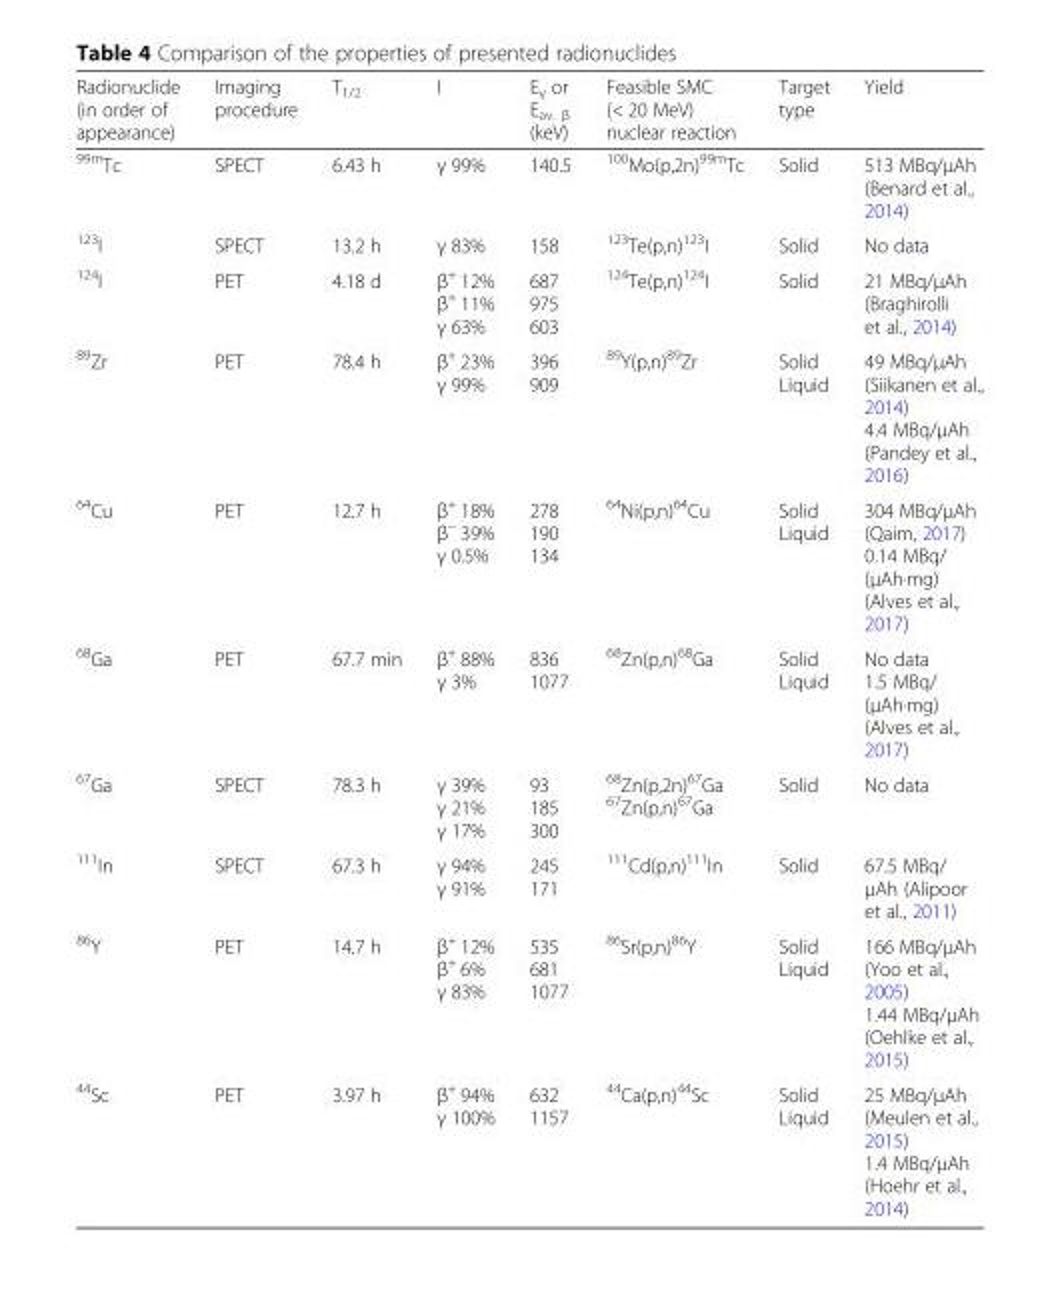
<table><thead><tr><td>Radionuclide (in order of appearance)</td><td>Imaging procedure</td><td>T<sub>1/2</sub></td><td>I</td><td>E<sub>γ</sub> or E<sub>av. β</sub> (keV)</td><td>Feasible SMC (&lt; 20 MeV) nuclear reaction</td><td>Target type</td><td>Yield</td></tr></thead><tbody><tr><td><sup>99m</sup>Tc</td><td>SPECT</td><td>6.43 h</td><td>γ 99%</td><td>140.5</td><td><sup>100</sup>Mo(p,2n)<sup>99m</sup>Tc</td><td>Solid</td><td>513 MBq/μAh (Benard et al., 2014)</td></tr><tr><td><sup>123</sup>I</td><td>SPECT</td><td>13.2 h</td><td>γ 83%</td><td>158</td><td><sup>123</sup>Te(p,n)<sup>123</sup>I</td><td>Solid</td><td>No data</td></tr><tr><td><sup>124</sup>I</td><td>PET</td><td>4.18 d</td><td>β<sup>+</sup> 12% β<sup>+</sup> 11% γ 63%</td><td>687 975 603</td><td><sup>124</sup>Te(p,n)<sup>124</sup>I</td><td>Solid</td><td>21 MBq/μAh (Braghirolli et al., 2014)</td></tr><tr><td><sup>89</sup>Zr</td><td>PET</td><td>78.4 h</td><td>β<sup>+</sup> 23% γ 99%</td><td>396 909</td><td><sup>89</sup>Y(p,n)<sup>89</sup>Zr</td><td>Solid Liquid</td><td>49 MBq/μAh (Siikanen et al., 2014) 4.4 MBq/μAh (Pandey et al., 2016)</td></tr><tr><td><sup>64</sup>Cu</td><td>PET</td><td>12.7 h</td><td>β<sup>+</sup> 18% β<sup>−</sup> 39% γ 0.5%</td><td>278 190 134</td><td><sup>64</sup>Ni(p,n)<sup>64</sup>Cu</td><td>Solid Liquid</td><td>304 MBq/μAh (Qaim, 2017) 0.14 MBq/ (μAh·mg) (Alves et al., 2017)</td></tr><tr><td><sup>68</sup>Ga</td><td>PET</td><td>67.7 min</td><td>β<sup>+</sup> 88% γ 3%</td><td>836 1077</td><td><sup>68</sup>Zn(p,n)<sup>68</sup>Ga</td><td>Solid Liquid</td><td>No data 1.5 MBq/ (μAh·mg) (Alves et al., 2017)</td></tr><tr><td><sup>67</sup>Ga</td><td>SPECT</td><td>78.3 h</td><td>γ 39% γ 21% γ 17%</td><td>93 185 300</td><td><sup>68</sup>Zn(p,2n)<sup>67</sup>Ga <sup>67</sup>Zn(p,n)<sup>67</sup>Ga</td><td>Solid</td><td>No data</td></tr><tr><td><sup>111</sup>In</td><td>SPECT</td><td>67.3 h</td><td>γ 94% γ 91%</td><td>245 171</td><td><sup>111</sup>Cd(p,n)<sup>111</sup>In</td><td>Solid</td><td>67.5 MBq/ μAh (Alipoor et al., 2011)</td></tr><tr><td><sup>86</sup>Y</td><td>PET</td><td>14.7 h</td><td>β<sup>+</sup> 12% β<sup>+</sup> 6% γ 83%</td><td>535 681 1077</td><td><sup>86</sup>Sr(p,n)<sup>86</sup>Y</td><td>Solid Liquid</td><td>166 MBq/μAh (Yoo et al., 2005) 1.44 MBq/μAh (Oehlke et al., 2015)</td></tr><tr><td><sup>44</sup>Sc</td><td>PET</td><td>3.97 h</td><td>β<sup>+</sup> 94% γ 100%</td><td>632 1157</td><td><sup>44</sup>Ca(p,n)<sup>44</sup>Sc</td><td>Solid Liquid</td><td>25 MBq/μAh (Meulen et al., 2015) 1.4 MBq/μAh (Hoehr et al., 2014)</td></tr></tbody></table>